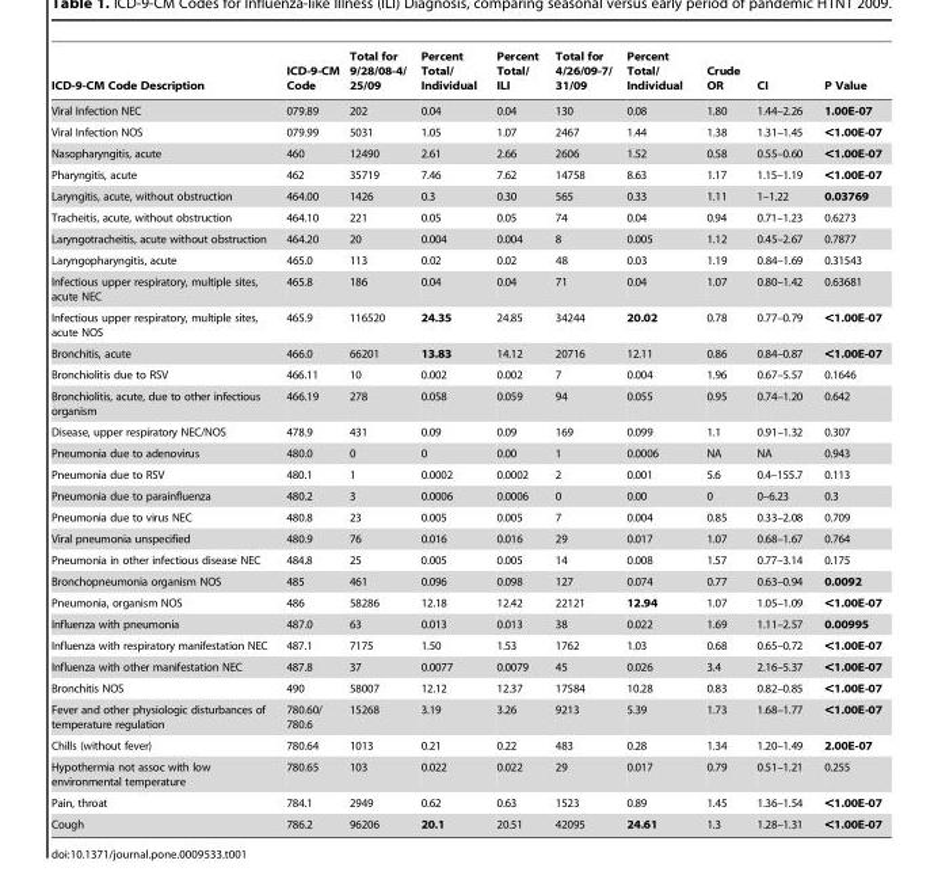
<table><thead><tr><td>ICD-9-CM Code Description</td><td>ICD-9-CM Code</td><td>Total for 9/28/08-4/ 25/09</td><td>Percent Total/ Individual</td><td>Percent Total/ ILI</td><td>Total for 4/26/09-7/ 31/09</td><td>Percent Total/ Individual</td><td>Crude OR</td><td>CI</td><td>P Value</td></tr></thead><tbody><tr><td>Viral Infection NEC</td><td>079.89</td><td>202</td><td>0.04</td><td>0.04</td><td>130</td><td>0.08</td><td>1.80</td><td>1.44–2.26</td><td>1.00E-07</td></tr><tr><td>Viral Infection NOS</td><td>079.99</td><td>5031</td><td>1.05</td><td>1.07</td><td>2467</td><td>1.44</td><td>1.38</td><td>1.31–1.45</td><td>&lt;1.00E-07</td></tr><tr><td>Nasopharyngitis, acute</td><td>460</td><td>12490</td><td>2.61</td><td>2.66</td><td>2606</td><td>1.52</td><td>0.58</td><td>0.55–0.60</td><td>&lt;1.00E-07</td></tr><tr><td>Pharyngitis, acute</td><td>462</td><td>35719</td><td>7.46</td><td>7.62</td><td>14758</td><td>8.63</td><td>1.17</td><td>1.15–1.19</td><td>&lt;1.00E-07</td></tr><tr><td>Laryngitis, acute, without obstruction</td><td>464.00</td><td>1426</td><td>0.3</td><td>0.30</td><td>565</td><td>0.33</td><td>1.11</td><td>1–1.22</td><td>0.03769</td></tr><tr><td>Tracheitis, acute, without obstruction</td><td>464.10</td><td>221</td><td>0.05</td><td>0.05</td><td>74</td><td>0.04</td><td>0.94</td><td>0.71–1.23</td><td>0.6273</td></tr><tr><td>Laryngotracheitis, acute without obstruction</td><td>464.20</td><td>20</td><td>0.004</td><td>0.004</td><td>8</td><td>0.005</td><td>1.12</td><td>0.45–2.67</td><td>0.7877</td></tr><tr><td>Laryngopharyngitis, acute</td><td>465.0</td><td>113</td><td>0.02</td><td>0.02</td><td>48</td><td>0.03</td><td>1.19</td><td>0.84–1.69</td><td>0.31543</td></tr><tr><td>Infectious upper respiratory, multiple sites, acute NEC</td><td>465.8</td><td>186</td><td>0.04</td><td>0.04</td><td>71</td><td>0.04</td><td>1.07</td><td>0.80–1.42</td><td>0.63681</td></tr><tr><td>Infectious upper respiratory, multiple sites, acute NOS</td><td>465.9</td><td>116520</td><td>24.35</td><td>24.85</td><td>34244</td><td>20.02</td><td>0.78</td><td>0.77–0.79</td><td>&lt;1.00E-07</td></tr><tr><td>Bronchitis, acute</td><td>466.0</td><td>66201</td><td>13.83</td><td>14.12</td><td>20716</td><td>12.11</td><td>0.86</td><td>0.84–0.87</td><td>&lt;1.00E-07</td></tr><tr><td>Bronchiolitis due to RSV</td><td>466.11</td><td>10</td><td>0.002</td><td>0.002</td><td>7</td><td>0.004</td><td>1.96</td><td>0.67–5.57</td><td>0.1646</td></tr><tr><td>Bronchiolitis, acute, due to other infectious organism</td><td>466.19</td><td>278</td><td>0.058</td><td>0.059</td><td>94</td><td>0.055</td><td>0.95</td><td>0.74–1.20</td><td>0.642</td></tr><tr><td>Disease, upper respiratory NEC/NOS</td><td>478.9</td><td>431</td><td>0.09</td><td>0.09</td><td>169</td><td>0.099</td><td>1.1</td><td>0.91–1.32</td><td>0.307</td></tr><tr><td>Pneumonia due to adenovirus</td><td>480.0</td><td>0</td><td>0</td><td>0.00</td><td>1</td><td>0.0006</td><td>NA</td><td>NA</td><td>0.943</td></tr><tr><td>Pneumonia due to RSV</td><td>480.1</td><td>1</td><td>0.0002</td><td>0.0002</td><td>2</td><td>0.001</td><td>5.6</td><td>0.4–155.7</td><td>0.113</td></tr><tr><td>Pneumonia due to parainfluenza</td><td>480.2</td><td>3</td><td>0.0006</td><td>0.0006</td><td>0</td><td>0.00</td><td>0</td><td>0–6.23</td><td>0.3</td></tr><tr><td>Pneumonia due to virus NEC</td><td>480.8</td><td>23</td><td>0.005</td><td>0.005</td><td>7</td><td>0.004</td><td>0.85</td><td>0.33–2.08</td><td>0.709</td></tr><tr><td>Viral pneumonia unspecified</td><td>480.9</td><td>76</td><td>0.016</td><td>0.016</td><td>29</td><td>0.017</td><td>1.07</td><td>0.68–1.67</td><td>0.764</td></tr><tr><td>Pneumonia in other infectious disease NEC</td><td>484.8</td><td>25</td><td>0.005</td><td>0.005</td><td>14</td><td>0.008</td><td>1.57</td><td>0.77–3.14</td><td>0.175</td></tr><tr><td>Bronchopneumonia organism NOS</td><td>485</td><td>461</td><td>0.096</td><td>0.098</td><td>127</td><td>0.074</td><td>0.77</td><td>0.63–0.94</td><td>0.0092</td></tr><tr><td>Pneumonia, organism NOS</td><td>486</td><td>58286</td><td>12.18</td><td>12.42</td><td>22121</td><td>12.94</td><td>1.07</td><td>1.05–1.09</td><td>&lt;1.00E-07</td></tr><tr><td>Influenza with pneumonia</td><td>487.0</td><td>63</td><td>0.013</td><td>0.013</td><td>38</td><td>0.022</td><td>1.69</td><td>1.11–2.57</td><td>0.00995</td></tr><tr><td>Influenza with respiratory manifestation NEC</td><td>487.1</td><td>7175</td><td>1.50</td><td>1.53</td><td>1762</td><td>1.03</td><td>0.68</td><td>0.65–0.72</td><td>&lt;1.00E-07</td></tr><tr><td>Influenza with other manifestation NEC</td><td>487.8</td><td>37</td><td>0.0077</td><td>0.0079</td><td>45</td><td>0.026</td><td>3.4</td><td>2.16–5.37</td><td>&lt;1.00E-07</td></tr><tr><td>Bronchitis NOS</td><td>490</td><td>58007</td><td>12.12</td><td>12.37</td><td>17584</td><td>10.28</td><td>0.83</td><td>0.82–0.85</td><td>&lt;1.00E-07</td></tr><tr><td>Fever and other physiologic disturbances of temperature regulation</td><td>780.60/ 780.6</td><td>15268</td><td>3.19</td><td>3.26</td><td>9213</td><td>5.39</td><td>1.73</td><td>1.68–1.77</td><td>&lt;1.00E-07</td></tr><tr><td>Chills (without fever)</td><td>780.64</td><td>1013</td><td>0.21</td><td>0.22</td><td>483</td><td>0.28</td><td>1.34</td><td>1.20–1.49</td><td>2.00E-07</td></tr><tr><td>Hypothermia not assoc with low environmental temperature</td><td>780.65</td><td>103</td><td>0.022</td><td>0.022</td><td>29</td><td>0.017</td><td>0.79</td><td>0.51–1.21</td><td>0.255</td></tr><tr><td>Pain, throat</td><td>784.1</td><td>2949</td><td>0.62</td><td>0.63</td><td>1523</td><td>0.89</td><td>1.45</td><td>1.36–1.54</td><td>&lt;1.00E-07</td></tr><tr><td>Cough</td><td>786.2</td><td>96206</td><td>20.1</td><td>20.51</td><td>42095</td><td>24.61</td><td>1.3</td><td>1.28–1.31</td><td>&lt;1.00E-07</td></tr></tbody></table>